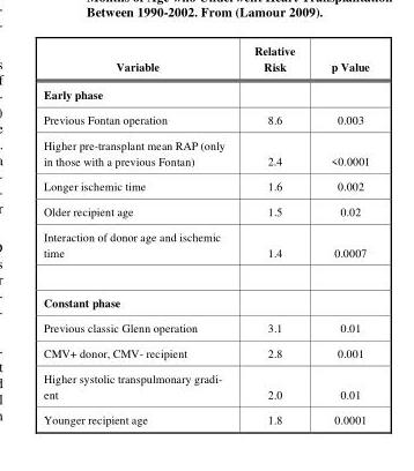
<table><thead><tr><td>Variable</td><td>Relative Risk</td><td>p Value</td></tr></thead><tbody><tr><td colspan="3">Early phase</td></tr><tr><td>Previous Fontan operation</td><td>8.6</td><td>0.003</td></tr><tr><td>Higher pre-transplant mean RAP (only in those with a previous Fontan)</td><td>2.4</td><td>&lt;0.0001</td></tr><tr><td>Longer ischemic time</td><td>1.6</td><td>0.002</td></tr><tr><td>Older recipient age</td><td>1.5</td><td>0.02</td></tr><tr><td>Interaction of donor age and ischemic time</td><td>1.4</td><td>0.0007</td></tr><tr><td colspan="3">Constant phase</td></tr><tr><td>Previous classic Glenn operation</td><td>3.1</td><td>0.01</td></tr><tr><td>CMV+ donor, CMV- recipient</td><td>2.8</td><td>0.001</td></tr><tr><td>Higher systolic transpulmonary gradi- ent</td><td>2.0</td><td>0.01</td></tr><tr><td>Younger recipient age</td><td>1.8</td><td>0.0001</td></tr></tbody></table>